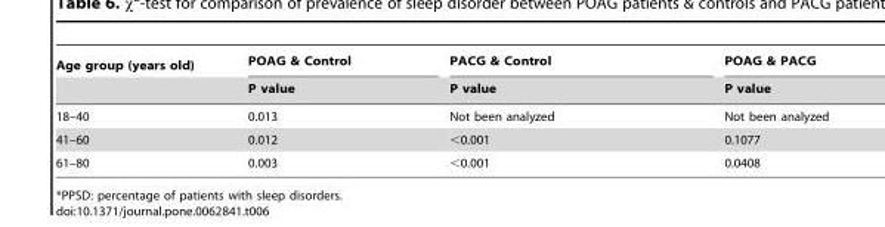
<table><thead><tr><td rowspan="2">Age group (years old)</td><td rowspan="2">POAG &amp; Control P value</td><td rowspan="2">PACG &amp; Control P value</td><td rowspan="2">POAG &amp; PACG P value</td></tr><tr></tr></thead><tbody><tr><td>18–40</td><td>0.013</td><td>Not been analyzed</td><td>Not been analyzed</td></tr><tr><td>41–60</td><td>0.012</td><td>&lt;0.001</td><td>0.1077</td></tr><tr><td>61–80</td><td>0.003</td><td>&lt;0.001</td><td>0.0408</td></tr></tbody></table>